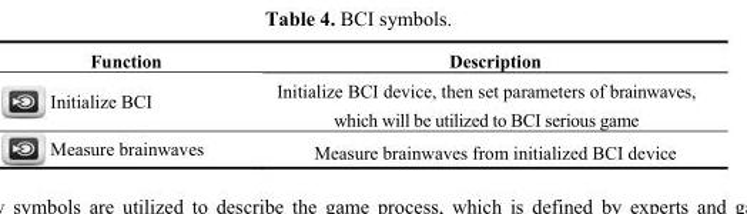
<table><thead><tr><td>Function</td><td>Description</td></tr></thead><tbody><tr><td>Initialize BCI</td><td>Initialize BCI device, then set parameters of brainwaves, which will be utilized to BCI serious game</td></tr><tr><td>Measure brainwaves</td><td>Measure brainwaves from initialized BCI device</td></tr></tbody></table>